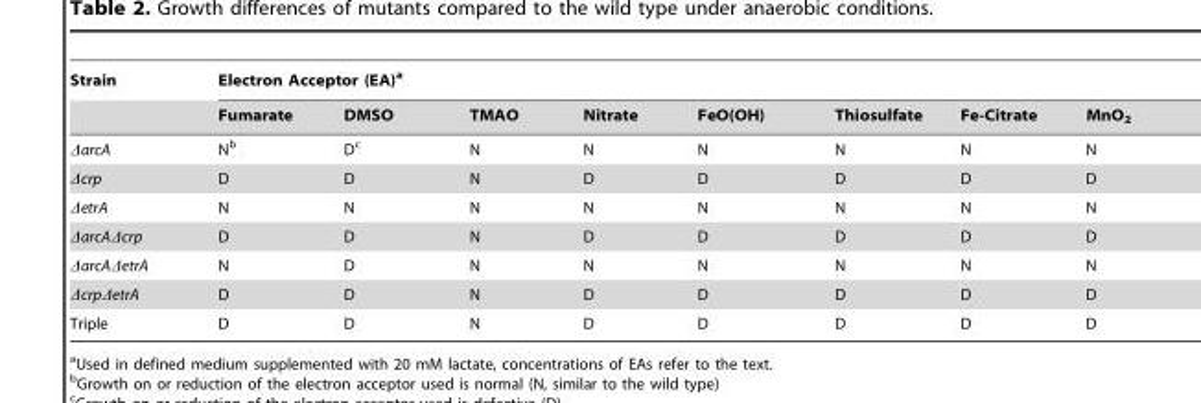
<table><thead><tr><td rowspan="2">Strain</td><td colspan="8">Electron Acceptor (EA)<sup>a</sup></td></tr><tr><td>Fumarate</td><td>DMSO</td><td>TMAO</td><td>Nitrate</td><td>FeO(OH)</td><td>Thiosulfate</td><td>Fe-Citrate</td><td>MnO<sub>2</sub></td></tr></thead><tbody><tr><td>ΔarcA</td><td>N<sup>b</sup></td><td>D<sup>c</sup></td><td>N</td><td>N</td><td>N</td><td>N</td><td>N</td><td>N</td></tr><tr><td>Δcrp</td><td>D</td><td>D</td><td>N</td><td>D</td><td>D</td><td>D</td><td>D</td><td>D</td></tr><tr><td>ΔetrA</td><td>N</td><td>N</td><td>N</td><td>N</td><td>N</td><td>N</td><td>N</td><td>N</td></tr><tr><td>ΔarcAΔcrp</td><td>D</td><td>D</td><td>N</td><td>D</td><td>D</td><td>D</td><td>D</td><td>D</td></tr><tr><td>ΔarcAΔetrA</td><td>N</td><td>D</td><td>N</td><td>N</td><td>N</td><td>N</td><td>N</td><td>N</td></tr><tr><td>ΔcrpΔetrA</td><td>D</td><td>D</td><td>N</td><td>D</td><td>D</td><td>D</td><td>D</td><td>D</td></tr><tr><td>Triple</td><td>D</td><td>D</td><td>N</td><td>D</td><td>D</td><td>D</td><td>D</td><td>D</td></tr></tbody></table>